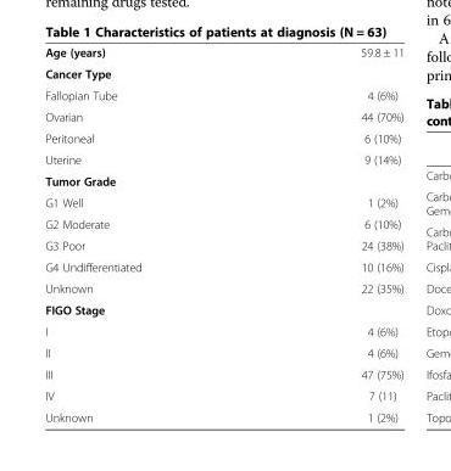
<table><tbody><tr><td>Age (years)</td><td>59.8 ± 11</td></tr><tr><td colspan="2">Cancer Type</td></tr><tr><td>Fallopian Tube</td><td>4 (6%)</td></tr><tr><td>Ovarian</td><td>44 (70%)</td></tr><tr><td>Peritoneal</td><td>6 (10%)</td></tr><tr><td>Uterine</td><td>9 (14%)</td></tr><tr><td colspan="2">Tumor Grade</td></tr><tr><td>G1 Well</td><td>1 (2%)</td></tr><tr><td>G2 Moderate</td><td>6 (10%)</td></tr><tr><td>G3 Poor</td><td>24 (38%)</td></tr><tr><td>G4 Undifferentiated</td><td>10 (16%)</td></tr><tr><td>Unknown</td><td>22 (35%)</td></tr><tr><td colspan="2">FIGO Stage</td></tr><tr><td>I</td><td>4 (6%)</td></tr><tr><td>II</td><td>4 (6%)</td></tr><tr><td>III</td><td>47 (75%)</td></tr><tr><td>IV</td><td>7 (11)</td></tr><tr><td>Unknown</td><td>1 (2%)</td></tr></tbody></table>